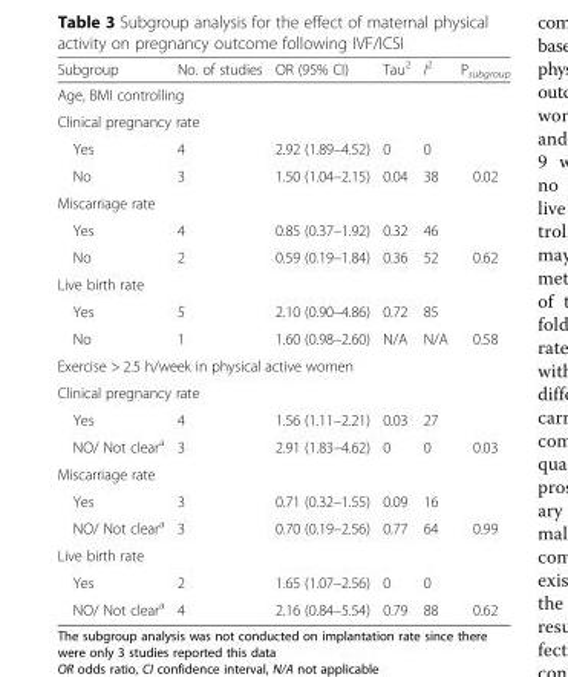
<table><thead><tr><td>Subgroup</td><td>No. of studies</td><td>OR (95% CI)</td><td>Tau<sup>2</sup></td><td>I<sup>2</sup></td><td>P<sub>subgroup</sub></td></tr></thead><tbody><tr><td colspan="6">Age, BMI controlling</td></tr><tr><td colspan="6">Clinical pregnancy rate</td></tr><tr><td>Yes</td><td>4</td><td>2.92 (1.89–4.52)</td><td>0</td><td>0</td><td></td></tr><tr><td>No</td><td>3</td><td>1.50 (1.04–2.15)</td><td>0.04</td><td>38</td><td>0.02</td></tr><tr><td colspan="6">Miscarriage rate</td></tr><tr><td>Yes</td><td>4</td><td>0.85 (0.37–1.92)</td><td>0.32</td><td>46</td><td></td></tr><tr><td>No</td><td>2</td><td>0.59 (0.19–1.84)</td><td>0.36</td><td>52</td><td>0.62</td></tr><tr><td colspan="6">Live birth rate</td></tr><tr><td>Yes</td><td>5</td><td>2.10 (0.90–4.86)</td><td>0.72</td><td>85</td><td></td></tr><tr><td>No</td><td>1</td><td>1.60 (0.98–2.60)</td><td>N/A</td><td>N/A</td><td>0.58</td></tr><tr><td colspan="6">Exercise &gt; 2.5 h/week in physical active women</td></tr><tr><td colspan="6">Clinical pregnancy rate</td></tr><tr><td>Yes</td><td>4</td><td>1.56 (1.11–2.21)</td><td>0.03</td><td>27</td><td></td></tr><tr><td>NO/ Not clear<sup>a</sup></td><td>3</td><td>2.91 (1.83–4.62)</td><td>0</td><td>0</td><td>0.03</td></tr><tr><td colspan="6">Miscarriage rate</td></tr><tr><td>Yes</td><td>3</td><td>0.71 (0.32–1.55)</td><td>0.09</td><td>16</td><td></td></tr><tr><td>NO/ Not clear<sup>a</sup></td><td>3</td><td>0.70 (0.19–2.56)</td><td>0.77</td><td>64</td><td>0.99</td></tr><tr><td colspan="6">Live birth rate</td></tr><tr><td>Yes</td><td>2</td><td>1.65 (1.07–2.56)</td><td>0</td><td>0</td><td></td></tr><tr><td>NO/ Not clear<sup>a</sup></td><td>4</td><td>2.16 (0.84–5.54)</td><td>0.79</td><td>88</td><td>0.62</td></tr></tbody></table>